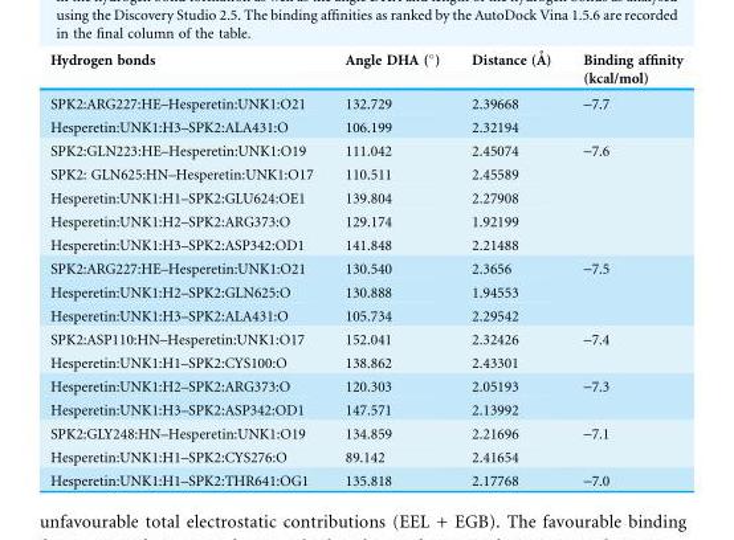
<table><thead><tr><td>Hydrogen bonds</td><td>Angle DHA (°)</td><td>Distance (A˚ )</td><td>Binding affinity (kcal/mol)</td></tr></thead><tbody><tr><td>SPK2:ARG227:HE–Hesperetin:UNK1:O21</td><td>132.729</td><td>2.39668</td><td rowspan="2">-7.7</td></tr><tr><td>Hesperetin:UNK1:H3–SPK2:ALA431:O</td><td>106.199</td><td>2.32194</td></tr><tr><td>SPK2:GLN223:HE–Hesperetin:UNK1:O19</td><td>111.042</td><td>2.45074</td><td rowspan="5">-7.6</td></tr><tr><td>SPK2: GLN625:HN–Hesperetin:UNK1:O17</td><td>110.511</td><td>2.45589</td></tr><tr><td>Hesperetin:UNK1:H1–SPK2:GLU624:OE1</td><td>139.804</td><td>2.27908</td></tr><tr><td>Hesperetin:UNK1:H2–SPK2:ARG373:O</td><td>129.174</td><td>1.92199</td></tr><tr><td>Hesperetin:UNK1:H3–SPK2:ASP342:OD1</td><td>141.848</td><td>2.21488</td></tr><tr><td>SPK2:ARG227:HE–Hesperetin:UNK1:O21</td><td>130.540</td><td>2.3656</td><td rowspan="3">-7.5</td></tr><tr><td>Hesperetin:UNK1:H2–SPK2:GLN625:O</td><td>130.888</td><td>1.94553</td></tr><tr><td>Hesperetin:UNK1:H3–SPK2:ALA431:O</td><td>105.734</td><td>2.29542</td></tr><tr><td>SPK2:ASP110:HN–Hesperetin:UNK1:O17</td><td>152.041</td><td>2.32426</td><td rowspan="2">-7.4</td></tr><tr><td>Hesperetin:UNK1:H1–SPK2:CYS100:O</td><td>138.862</td><td>2.43301</td></tr><tr><td>Hesperetin:UNK1:H2–SPK2:ARG373:O</td><td>120.303</td><td>2.05193</td><td rowspan="2">-7.3</td></tr><tr><td>Hesperetin:UNK1:H3–SPK2:ASP342:OD1</td><td>147.571</td><td>2.13992</td></tr><tr><td>SPK2:GLY248:HN–Hesperetin:UNK1:O19</td><td>134.859</td><td>2.21696</td><td rowspan="2">-7.1</td></tr><tr><td>Hesperetin:UNK1:H1–SPK2:CYS276:O</td><td>89.142</td><td>2.41654</td></tr><tr><td>Hesperetin:UNK1:H1–SPK2:THR641:OG1</td><td>135.818</td><td>2.17768</td><td>-7.0</td></tr></tbody></table>